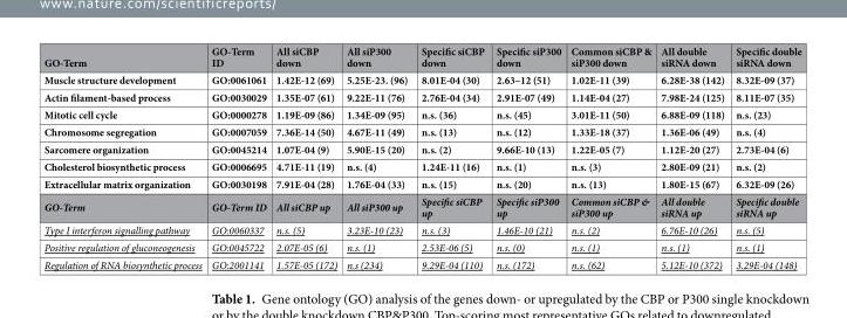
<table><thead><tr><td>GO-Term</td><td>GO-Term ID</td><td>All siCBP down</td><td>All siP300 down</td><td>Specific siCBP down</td><td>Specific siP300 down</td><td>Common siCBP &amp; siP300 down</td><td>All double siRNA down</td><td>Specific double siRNA down</td></tr></thead><tbody><tr><td>Muscle structure development</td><td>GO:0061061</td><td>1.42E-12 (69)</td><td>5.25E-23. (96)</td><td>8.01E-04 (30)</td><td>2.63–12 (51)</td><td>1.02E-11 (39)</td><td>6.28E-38 (142)</td><td>8.32E-09 (37)</td></tr><tr><td>Actin filament-based process</td><td>GO:0030029</td><td>1.35E-07 (61)</td><td>9.22E-11 (76)</td><td>2.76E-04 (34)</td><td>2.91E-07 (49)</td><td>1.14E-04 (27)</td><td>7.98E-24 (125)</td><td>8.11E-07 (35)</td></tr><tr><td>Mitotic cell cycle</td><td>GO:0000278</td><td>1.19E-09 (86)</td><td>1.34E-09 (95)</td><td>n.s. (36)</td><td>n.s. (45)</td><td>3.01E-11 (50)</td><td>6.88E-09 (118)</td><td>n.s. (23)</td></tr><tr><td>Chromosome segregation</td><td>GO:0007059</td><td>7.36E-14 (50)</td><td>4.67E-11 (49)</td><td>n.s. (13)</td><td>n.s. (12)</td><td>1.33E-18 (37)</td><td>1.36E-06 (49)</td><td>n.s. (4)</td></tr><tr><td>Sarcomere organization</td><td>GO:0045214</td><td>1.07E-04 (9)</td><td>5.90E-15 (20)</td><td>n.s. (2)</td><td>9.66E-10 (13)</td><td>1.22E-05 (7)</td><td>1.12E-20 (27)</td><td>2.73E-04 (6)</td></tr><tr><td>Cholesterol biosynthetic process</td><td>GO:0006695</td><td>4.71E-11 (19)</td><td>n.s. (4)</td><td>1.24E-11 (16)</td><td>n.s. (1)</td><td>n.s. (3)</td><td>2.80E-09 (21)</td><td>n.s. (2)</td></tr><tr><td>Extracellular matrix organization</td><td>GO:0030198</td><td>7.91E-04 (28)</td><td>1.76E-04 (33)</td><td>n.s. (15)</td><td>n.s. (20)</td><td>n.s. (13)</td><td>1.80E-15 (67)</td><td>6.32E-09 (26)</td></tr><tr><td>GO-Term</td><td>GO-Term ID</td><td>All siCBP up</td><td>All siP300 up</td><td>Specific siCBP up</td><td>Specific siP300 up</td><td>Common siCBP &amp; siP300 up</td><td>All double siRNA up</td><td>Specific double siRNA up</td></tr><tr><td>Type I interferon signalling pathway</td><td>GO:0060337</td><td>n.s. (5)</td><td>3.23E-10 (23)</td><td>n.s. (3)</td><td>1.46E-10 (21)</td><td>n.s. (2)</td><td>6.76E-10 (26)</td><td>n.s. (5)</td></tr><tr><td>Positive regulation of gluconeogenesis</td><td>GO:0045722</td><td>2.07E-05 (6)</td><td>n.s. (1)</td><td>2.53E-06 (5)</td><td>n.s. (0)</td><td>n.s. (1)</td><td>n.s. (1)</td><td>n.s. (1)</td></tr><tr><td>Regulation of RNA biosynthetic process</td><td>GO:2001141</td><td>1.57E-05 (172)</td><td>n.s (234)</td><td>9.29E-04 (110)</td><td>n.s. (172)</td><td>n.s. (62)</td><td>5.12E-10 (372)</td><td>3.29E-04 (148)</td></tr></tbody></table>